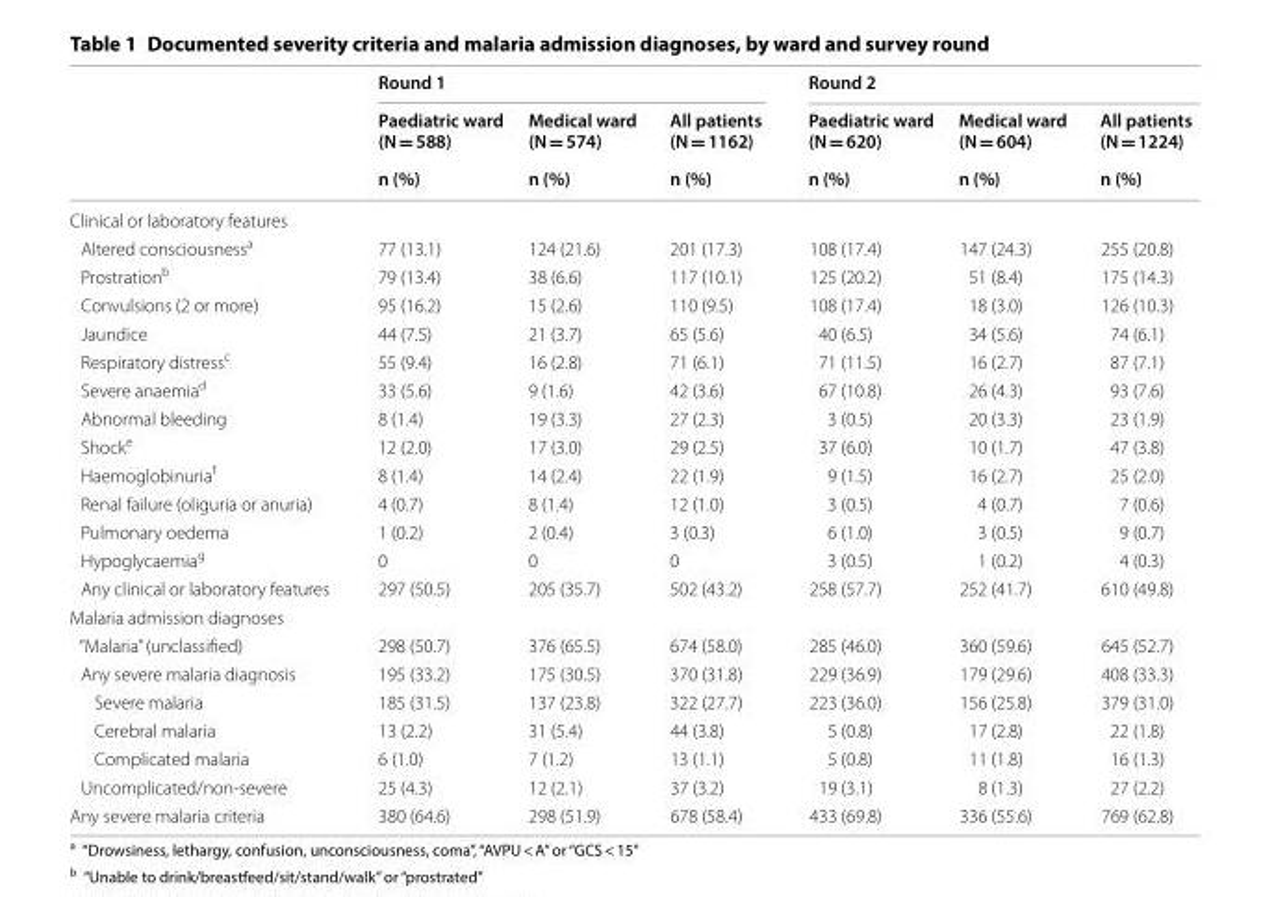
<table><thead><tr><td rowspan="3"></td><td colspan="3">Round 1</td><td colspan="3">Round 2</td></tr><tr><td rowspan="2">Paediatric ward (N = 588) n (%)</td><td rowspan="2">Medical ward (N = 574) n (%)</td><td rowspan="2">All patients (N = 1162) n (%)</td><td rowspan="2">Paediatric ward (N = 620) n (%)</td><td rowspan="2">Medical ward (N = 604) n (%)</td><td rowspan="2">All patients (N = 1224) n (%)</td></tr><tr></tr></thead><tbody><tr><td colspan="7">Clinical or laboratory features</td></tr><tr><td>Altered consciousness<sup>a</sup></td><td>77 (13.1)</td><td>124 (21.6)</td><td>201 (17.3)</td><td>108 (17.4)</td><td>147 (24.3)</td><td>255 (20.8)</td></tr><tr><td>Prostration<sup>b</sup></td><td>79 (13.4)</td><td>38 (6.6)</td><td>117 (10.1)</td><td>125 (20.2)</td><td>51 (8.4)</td><td>175 (14.3)</td></tr><tr><td>Convulsions (2 or more)</td><td>95 (16.2)</td><td>15 (2.6)</td><td>110 (9.5)</td><td>108 (17.4)</td><td>18 (3.0)</td><td>126 (10.3)</td></tr><tr><td>Jaundice</td><td>44 (7.5)</td><td>21 (3.7)</td><td>65 (5.6)</td><td>40 (6.5)</td><td>34 (5.6)</td><td>74 (6.1)</td></tr><tr><td>Respiratory distress<sup>c</sup></td><td>55 (9.4)</td><td>16 (2.8)</td><td>71 (6.1)</td><td>71 (11.5)</td><td>16 (2.7)</td><td>87 (7.1)</td></tr><tr><td>Severe anaemia<sup>d</sup></td><td>33 (5.6)</td><td>9 (1.6)</td><td>42 (3.6)</td><td>67 (10.8)</td><td>26 (4.3)</td><td>93 (7.6)</td></tr><tr><td>Abnormal bleeding</td><td>8 (1.4)</td><td>19 (3.3)</td><td>27 (2.3)</td><td>3 (0.5)</td><td>20 (3.3)</td><td>23 (1.9)</td></tr><tr><td>Shock<sup>e</sup></td><td>12 (2.0)</td><td>17 (3.0)</td><td>29 (2.5)</td><td>37 (6.0)</td><td>10 (1.7)</td><td>47 (3.8)</td></tr><tr><td>Haemoglobinuria<sup>f</sup></td><td>8 (1.4)</td><td>14 (2.4)</td><td>22 (1.9)</td><td>9 (1.5)</td><td>16 (2.7)</td><td>25 (2.0)</td></tr><tr><td>Renal failure (oliguria or anuria)</td><td>4 (0.7)</td><td>8 (1.4)</td><td>12 (1.0)</td><td>3 (0.5)</td><td>4 (0.7)</td><td>7 (0.6)</td></tr><tr><td>Pulmonary oedema</td><td>1 (0.2)</td><td>2 (0.4)</td><td>3 (0.3)</td><td>6 (1.0)</td><td>3 (0.5)</td><td>9 (0.7)</td></tr><tr><td>Hypoglycaemia<sup>g</sup></td><td>0</td><td>0</td><td>0</td><td>3 (0.5)</td><td>1 (0.2)</td><td>4 (0.3)</td></tr><tr><td>Any clinical or laboratory features</td><td>297 (50.5)</td><td>205 (35.7)</td><td>502 (43.2)</td><td>258 (57.7)</td><td>252 (41.7)</td><td>610 (49.8)</td></tr><tr><td colspan="7">Malaria admission diagnoses</td></tr><tr><td>“Malaria” (unclassified)</td><td>298 (50.7)</td><td>376 (65.5)</td><td>674 (58.0)</td><td>285 (46.0)</td><td>360 (59.6)</td><td>645 (52.7)</td></tr><tr><td>Any severe malaria diagnosis</td><td>195 (33.2)</td><td>175 (30.5)</td><td>370 (31.8)</td><td>229 (36.9)</td><td>179 (29.6)</td><td>408 (33.3)</td></tr><tr><td>Severe malaria</td><td>185 (31.5)</td><td>137 (23.8)</td><td>322 (27.7)</td><td>223 (36.0)</td><td>156 (25.8)</td><td>379 (31.0)</td></tr><tr><td>Cerebral malaria</td><td>13 (2.2)</td><td>31 (5.4)</td><td>44 (3.8)</td><td>5 (0.8)</td><td>17 (2.8)</td><td>22 (1.8)</td></tr><tr><td>Complicated malaria</td><td>6 (1.0)</td><td>7 (1.2)</td><td>13 (1.1)</td><td>5 (0.8)</td><td>11 (1.8)</td><td>16 (1.3)</td></tr><tr><td>Uncomplicated/non-severe</td><td>25 (4.3)</td><td>12 (2.1)</td><td>37 (3.2)</td><td>19 (3.1)</td><td>8 (1.3)</td><td>27 (2.2)</td></tr><tr><td>Any severe malaria criteria</td><td>380 (64.6)</td><td>298 (51.9)</td><td>678 (58.4)</td><td>433 (69.8)</td><td>336 (55.6)</td><td>769 (62.8)</td></tr></tbody></table>